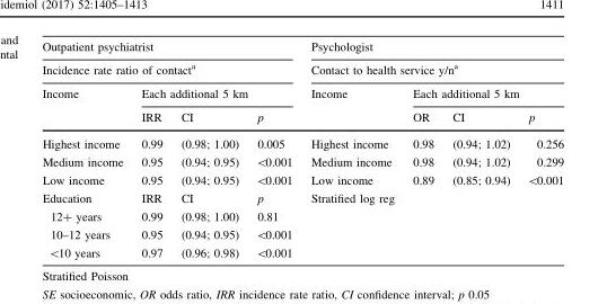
<table><thead><tr><td rowspan="2" colspan="4">Outpatient psychiatrist Incidence rate ratio of contact<sup>a</sup></td><td rowspan="2" colspan="4">Psychologist Contact to health service y/n<sup>a</sup></td></tr><tr></tr><tr><td rowspan="2">Income</td><td colspan="3">Each additional 5 km</td><td rowspan="2">Income</td><td colspan="3">Each additional 5 km</td></tr><tr><td>IRR</td><td>CI</td><td>p</td><td>OR</td><td>CI</td><td>p</td></tr></thead><tbody><tr><td>Highest income</td><td>0.99</td><td>(0.98; 1.00)</td><td>0.005</td><td>Highest income</td><td>0.98</td><td>(0.94; 1.02)</td><td>0.256</td></tr><tr><td>Medium income</td><td>0.95</td><td>(0.94; 0.95)</td><td>&lt;0.001</td><td>Medium income</td><td>0.98</td><td>(0.94; 1.02)</td><td>0.299</td></tr><tr><td>Low income</td><td>0.95</td><td>(0.94; 0.95)</td><td>&lt;0.001</td><td>Low income</td><td>0.89</td><td>(0.85; 0.94)</td><td>&lt;0.001</td></tr><tr><td>Education</td><td>IRR</td><td>CI</td><td>p</td><td>Stratified log reg</td><td></td><td></td><td></td></tr><tr><td>12+ years</td><td>0.99</td><td>(0.98; 1.00)</td><td>0.81</td><td></td><td></td><td></td><td></td></tr><tr><td>10–12 years</td><td>0.95</td><td>(0.94; 0.95)</td><td>&lt;0.001</td><td></td><td></td><td></td><td></td></tr><tr><td>&lt;10 years</td><td>0.97</td><td>(0.96; 0.98)</td><td>&lt;0.001</td><td></td><td></td><td></td><td></td></tr></tbody></table>